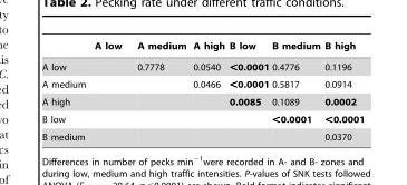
<table><thead><tr><td></td><td>A low</td><td>A medium</td><td>A high</td><td>B low</td><td>B medium</td><td>B high</td></tr></thead><tbody><tr><td>A low</td><td></td><td>0.7778</td><td>0.0540</td><td>&lt;0.0001</td><td>0.4776</td><td>0.1196</td></tr><tr><td>A medium</td><td></td><td></td><td>0.0466</td><td>&lt;0.0001</td><td>0.5817</td><td>0.0914</td></tr><tr><td>A high</td><td></td><td></td><td></td><td>0.0085</td><td>0.1089</td><td>0.0002</td></tr><tr><td>B low</td><td></td><td></td><td></td><td></td><td>&lt;0.0001</td><td>&lt;0.0001</td></tr><tr><td>B medium</td><td></td><td></td><td></td><td></td><td></td><td>0.0370</td></tr></tbody></table>